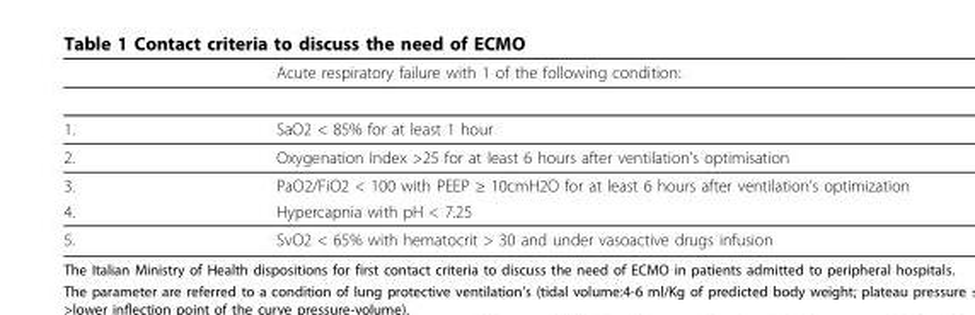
<table><thead><tr><td></td><td>Acute respiratory failure with 1 of the following condition:</td></tr></thead><tbody><tr><td>1.</td><td>SaO2 &lt; 85% for at least 1 hour</td></tr><tr><td>2.</td><td>Oxygenation Index &gt;25 for at least 6 hours after ventilation’s optimisation</td></tr><tr><td>3.</td><td>PaO2/FiO2 &lt; 100 with PEEP ≥ 10cmH2O for at least 6 hours after ventilation’s optimization</td></tr><tr><td>4.</td><td>Hypercapnia with pH &lt; 7.25</td></tr><tr><td>5.</td><td>SvO2 &lt; 65% with hematocrit &gt; 30 and under vasoactive drugs infusion</td></tr></tbody></table>